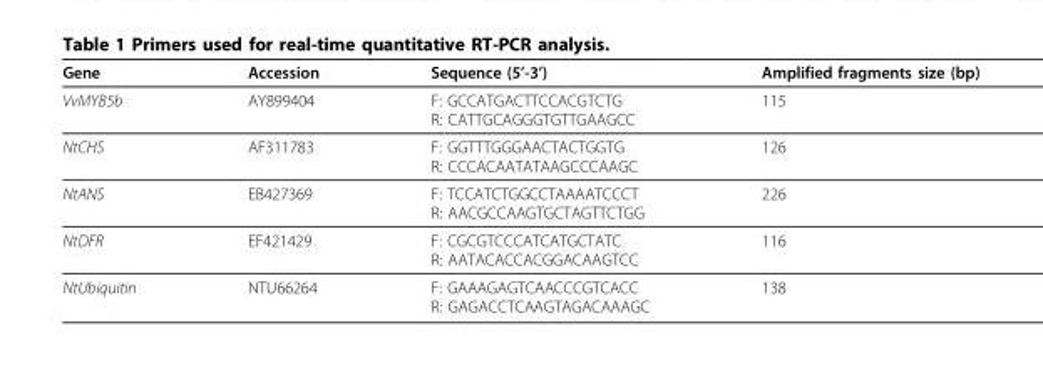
<table><thead><tr><td>Gene</td><td>Accession</td><td>Sequence (5’-3’)</td><td>Amplified fragments size (bp)</td></tr></thead><tbody><tr><td>VvMYB5b</td><td>AY899404</td><td>F: GCCATGACTTCCACGTCTG R: CATTGCAGGGTGTTGAAGCC</td><td>115</td></tr><tr><td>NtCHS</td><td>AF311783</td><td>F: GGTTTGGGAACTACTGGTG R: CCCACAATATAAGCCCAAGC</td><td>126</td></tr><tr><td>NtANS</td><td>EB427369</td><td>F: TCCATCTGGCCTAAAATCCCT R: AACGCCAAGTGCTAGTTCTGG</td><td>226</td></tr><tr><td>NtDFR</td><td>EF421429</td><td>F: CGCGTCCCATCATGCTATC R: AATACACCACGGACAAGTCC</td><td>116</td></tr><tr><td>NtUbiquitin</td><td>NTU66264</td><td>F: GAAAGAGTCAACCCGTCACC R: GAGACCTCAAGTAGACAAAGC</td><td>138</td></tr></tbody></table>